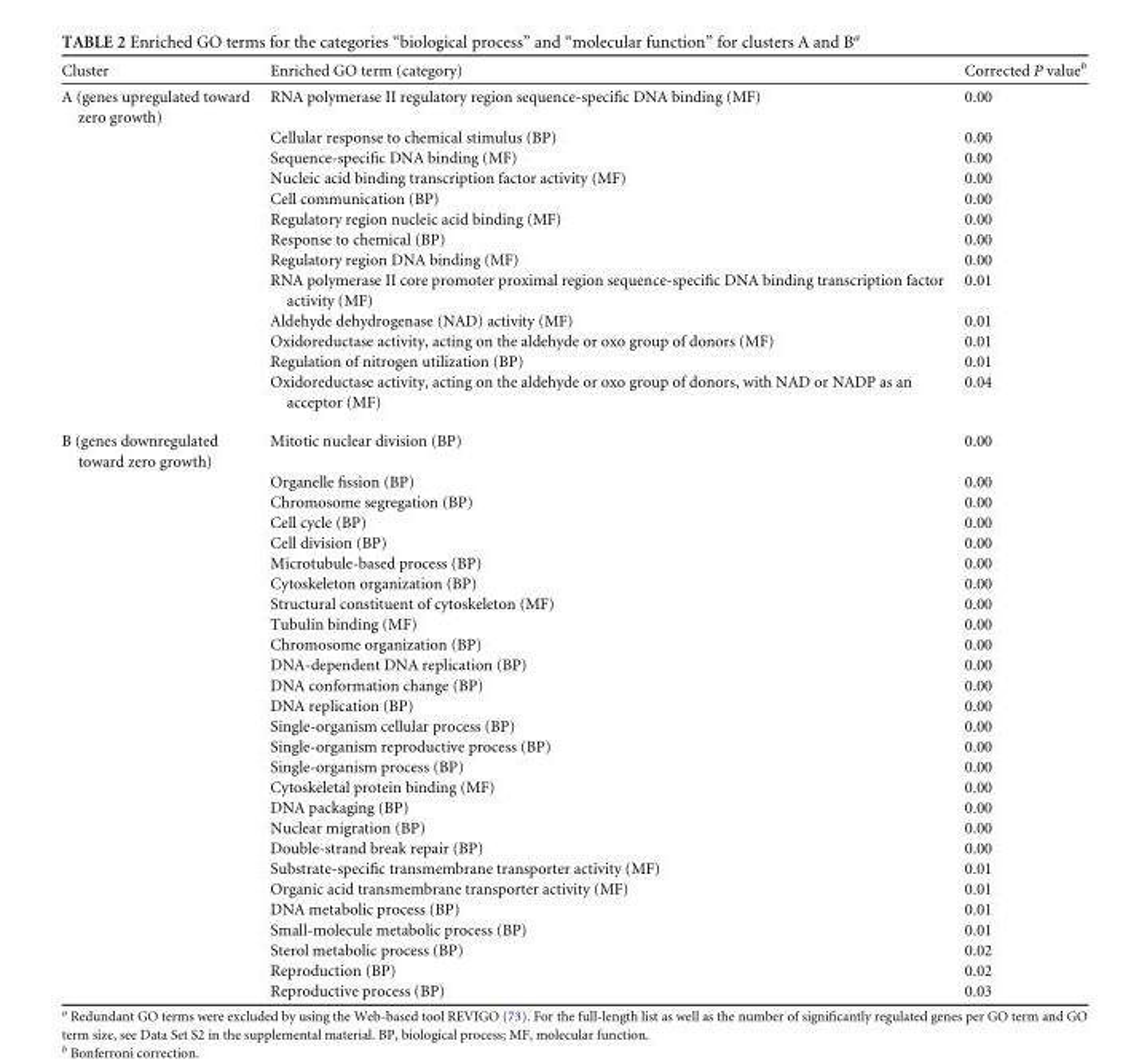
<table><thead><tr><td>Cluster</td><td>Enriched GO term (category)</td><td>Corrected P value<sup>b</sup></td></tr></thead><tbody><tr><td rowspan="13">A (genes upregulated toward zero growth)</td><td>RNA polymerase II regulatory region sequence-specific DNA binding (MF)</td><td>0.00</td></tr><tr><td>Cellular response to chemical stimulus (BP)</td><td>0.00</td></tr><tr><td>Sequence-specific DNA binding (MF)</td><td>0.00</td></tr><tr><td>Nucleic acid binding transcription factor activity (MF)</td><td>0.00</td></tr><tr><td>Cell communication (BP)</td><td>0.00</td></tr><tr><td>Regulatory region nucleic acid binding (MF)</td><td>0.00</td></tr><tr><td>Response to chemical (BP)</td><td>0.00</td></tr><tr><td>Regulatory region DNA binding (MF)</td><td>0.00</td></tr><tr><td>RNA polymerase II core promoter proximal region sequence-specific DNA binding transcription factor activity (MF)</td><td>0.01</td></tr><tr><td>Aldehyde dehydrogenase (NAD) activity (MF)</td><td>0.01</td></tr><tr><td>Oxidoreductase activity, acting on the aldehyde or oxo group of donors (MF)</td><td>0.01</td></tr><tr><td>Regulation of nitrogen utilization (BP)</td><td>0.01</td></tr><tr><td>Oxidoreductase activity, acting on the aldehyde or oxo group of donors, with NAD or NADP as an acceptor (MF)</td><td>0.04</td></tr><tr><td rowspan="27">B (genes downregulated toward zero growth)</td><td>Mitotic nuclear division (BP)</td><td>0.00</td></tr><tr><td>Organelle fission (BP)</td><td>0.00</td></tr><tr><td>Chromosome segregation (BP)</td><td>0.00</td></tr><tr><td>Cell cycle (BP)</td><td>0.00</td></tr><tr><td>Cell division (BP)</td><td>0.00</td></tr><tr><td>Microtubule-based process (BP)</td><td>0.00</td></tr><tr><td>Cytoskeleton organization (BP)</td><td>0.00</td></tr><tr><td>Structural constituent of cytoskeleton (MF)</td><td>0.00</td></tr><tr><td>Tubulin binding (MF)</td><td>0.00</td></tr><tr><td>Chromosome organization (BP)</td><td>0.00</td></tr><tr><td>DNA-dependent DNA replication (BP)</td><td>0.00</td></tr><tr><td>DNA conformation change (BP)</td><td>0.00</td></tr><tr><td>DNA replication (BP)</td><td>0.00</td></tr><tr><td>Single-organism cellular process (BP)</td><td>0.00</td></tr><tr><td>Single-organism reproductive process (BP)</td><td>0.00</td></tr><tr><td>Single-organism process (BP)</td><td>0.00</td></tr><tr><td>Cytoskeletal protein binding (MF)</td><td>0.00</td></tr><tr><td>DNA packaging (BP)</td><td>0.00</td></tr><tr><td>Nuclear migration (BP)</td><td>0.00</td></tr><tr><td>Double-strand break repair (BP)</td><td>0.00</td></tr><tr><td>Substrate-specific transmembrane transporter activity (MF)</td><td>0.01</td></tr><tr><td>Organic acid transmembrane transporter activity (MF)</td><td>0.01</td></tr><tr><td>DNA metabolic process (BP)</td><td>0.01</td></tr><tr><td>Small-molecule metabolic process (BP)</td><td>0.01</td></tr><tr><td>Sterol metabolic process (BP)</td><td>0.02</td></tr><tr><td>Reproduction (BP)</td><td>0.02</td></tr><tr><td>Reproductive process (BP)</td><td>0.03</td></tr></tbody></table>